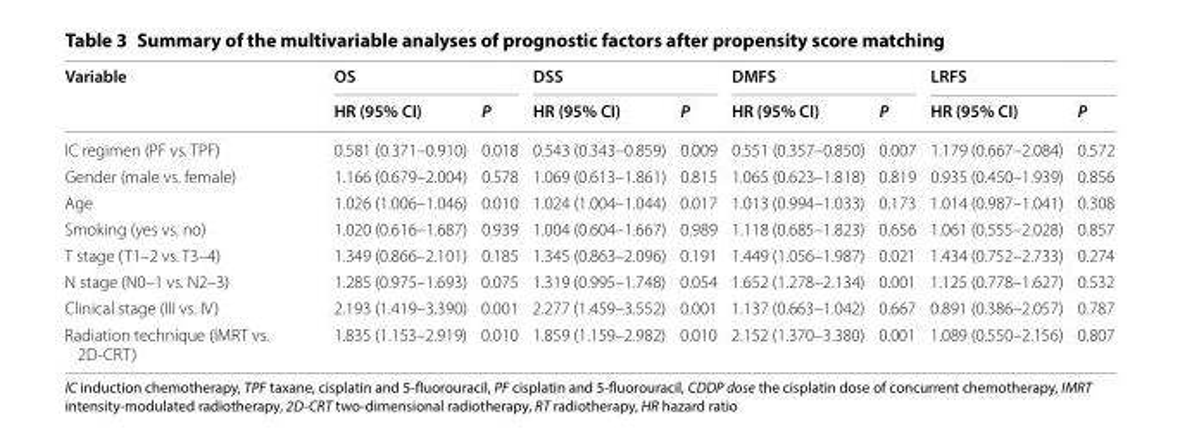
<table><thead><tr><td rowspan="2">Variable</td><td colspan="2">OS</td><td colspan="2">DSS</td><td colspan="2">DMFS</td><td colspan="2">LRFS</td></tr><tr><td>HR (95% CI)</td><td>P</td><td>HR (95% CI)</td><td>P</td><td>HR (95% CI)</td><td>P</td><td>HR (95% CI)</td><td>P</td></tr></thead><tbody><tr><td>IC regimen (PF vs. TPF)</td><td>0.581 (0.371–0.910)</td><td>0.018</td><td>0.543 (0.343–0.859)</td><td>0.009</td><td>0.551 (0.357–0.850)</td><td>0.007</td><td>1.179 (0.667–2.084)</td><td>0.572</td></tr><tr><td>Gender (male vs. female)</td><td>1.166 (0.679–2.004)</td><td>0.578</td><td>1.069 (0.613–1.861)</td><td>0.815</td><td>1.065 (0.623–1.818)</td><td>0.819</td><td>0.935 (0.450–1.939)</td><td>0.856</td></tr><tr><td>Age</td><td>1.026 (1.006–1.046)</td><td>0.010</td><td>1.024 (1.004–1.044)</td><td>0.017</td><td>1.013 (0.994–1.033)</td><td>0.173</td><td>1.014 (0.987–1.041)</td><td>0.308</td></tr><tr><td>Smoking (yes vs. no)</td><td>1.020 (0.616–1.687)</td><td>0.939</td><td>1.004 (0.604–1.667)</td><td>0.989</td><td>1.118 (0.685–1.823)</td><td>0.656</td><td>1.061 (0.555–2.028)</td><td>0.857</td></tr><tr><td>T stage (T1–2 vs. T3–4)</td><td>1.349 (0.866–2.101)</td><td>0.185</td><td>1.345 (0.863–2.096)</td><td>0.191</td><td>1.449 (1.056–1.987)</td><td>0.021</td><td>1.434 (0.752–2.733)</td><td>0.274</td></tr><tr><td>N stage (N0–1 vs. N2–3)</td><td>1.285 (0.975–1.693)</td><td>0.075</td><td>1.319 (0.995–1.748)</td><td>0.054</td><td>1.652 (1.278–2.134)</td><td>0.001</td><td>1.125 (0.778–1.627)</td><td>0.532</td></tr><tr><td>Clinical stage (III vs. IV)</td><td>2.193 (1.419–3.390)</td><td>0.001</td><td>2.277 (1.459–3.552)</td><td>0.001</td><td>1.137 (0.663–1.042)</td><td>0.667</td><td>0.891 (0.386–2.057)</td><td>0.787</td></tr><tr><td>Radiation technique (IMRT vs. 2D‑CRT)</td><td>1.835 (1.153–2.919)</td><td>0.010</td><td>1.859 (1.159–2.982)</td><td>0.010</td><td>2.152 (1.370–3.380)</td><td>0.001</td><td>1.089 (0.550–2.156)</td><td>0.807</td></tr></tbody></table>